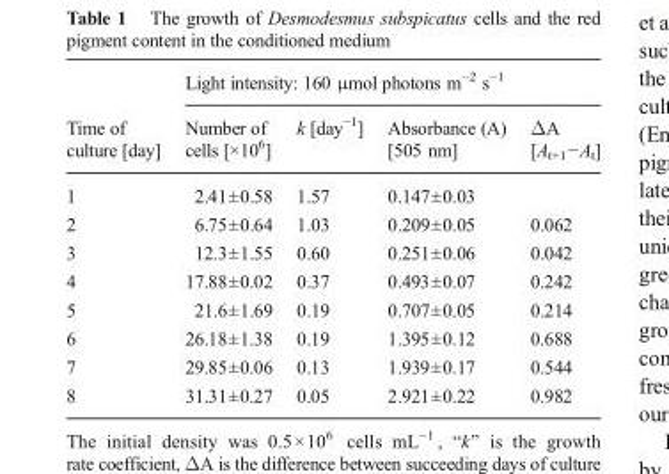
<table><thead><tr><td rowspan="2">Time of culture [day]</td><td colspan="4">Light intensity: 160 μmol photons m<sup>−2</sup> s<sup>−1</sup></td></tr><tr><td>Number of cells [×10<sup>6</sup>]</td><td>k [day<sup>−1</sup>]</td><td>Absorbance (A) [505 nm]</td><td>ΔΑ [A<sub>t+1</sub>−A<sub>t</sub>]</td></tr></thead><tbody><tr><td>1</td><td>2.41±0.58</td><td>1.57</td><td>0.147±0.03</td><td></td></tr><tr><td>2</td><td>6.75±0.64</td><td>1.03</td><td>0.209±0.05</td><td>0.062</td></tr><tr><td>3</td><td>12.3±1.55</td><td>0.60</td><td>0.251±0.06</td><td>0.042</td></tr><tr><td>4</td><td>17.88±0.02</td><td>0.37</td><td>0.493±0.07</td><td>0.242</td></tr><tr><td>5</td><td>21.6±1.69</td><td>0.19</td><td>0.707±0.05</td><td>0.214</td></tr><tr><td>6</td><td>26.18±1.38</td><td>0.19</td><td>1.395±0.12</td><td>0.688</td></tr><tr><td>7</td><td>29.85±0.06</td><td>0.13</td><td>1.939±0.17</td><td>0.544</td></tr><tr><td>8</td><td>31.31±0.27</td><td>0.05</td><td>2.921±0.22</td><td>0.982</td></tr></tbody></table>